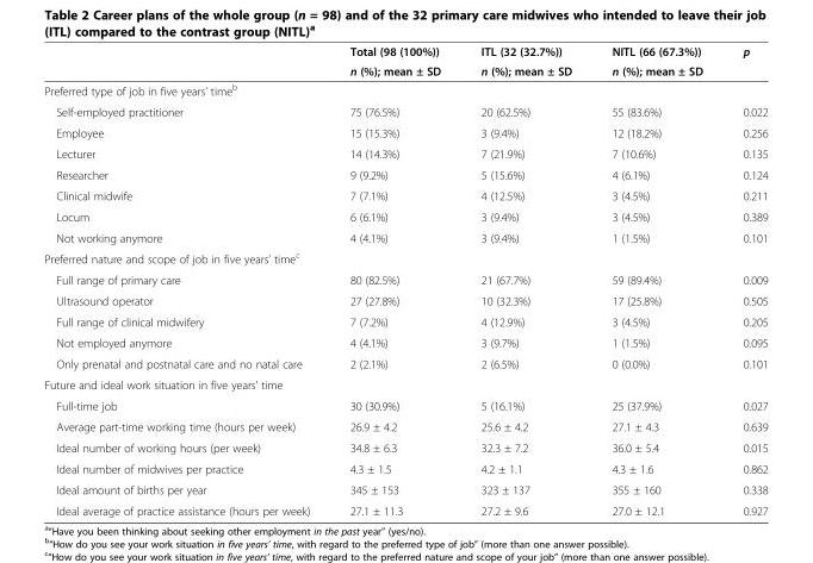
<table><thead><tr><td rowspan="2"></td><td rowspan="2">Total (98 (100%)) n (%); mean ± SD</td><td rowspan="2">ITL (32 (32.7%)) n (%); mean ± SD</td><td rowspan="2">NITL (66 (67.3%)) n (%); mean ± SD</td><td rowspan="2">p</td></tr><tr></tr></thead><tbody><tr><td colspan="5">Preferred type of job in five years’ time<sup>b</sup></td></tr><tr><td>Self-employed practitioner</td><td>75 (76.5%)</td><td>20 (62.5%)</td><td>55 (83.6%)</td><td>0.022</td></tr><tr><td>Employee</td><td>15 (15.3%)</td><td>3 (9.4%)</td><td>12 (18.2%)</td><td>0.256</td></tr><tr><td>Lecturer</td><td>14 (14.3%)</td><td>7 (21.9%)</td><td>7 (10.6%)</td><td>0.135</td></tr><tr><td>Researcher</td><td>9 (9.2%)</td><td>5 (15.6%)</td><td>4 (6.1%)</td><td>0.124</td></tr><tr><td>Clinical midwife</td><td>7 (7.1%)</td><td>4 (12.5%)</td><td>3 (4.5%)</td><td>0.211</td></tr><tr><td>Locum</td><td>6 (6.1%)</td><td>3 (9.4%)</td><td>3 (4.5%)</td><td>0.389</td></tr><tr><td>Not working anymore</td><td>4 (4.1%)</td><td>3 (9.4%)</td><td>1 (1.5%)</td><td>0.101</td></tr><tr><td colspan="5">Preferred nature and scope of job in five years’ time<sup>c</sup></td></tr><tr><td>Full range of primary care</td><td>80 (82.5%)</td><td>21 (67.7%)</td><td>59 (89.4%)</td><td>0.009</td></tr><tr><td>Ultrasound operator</td><td>27 (27.8%)</td><td>10 (32.3%)</td><td>17 (25.8%)</td><td>0.505</td></tr><tr><td>Full range of clinical midwifery</td><td>7 (7.2%)</td><td>4 (12.9%)</td><td>3 (4.5%)</td><td>0.205</td></tr><tr><td>Not employed anymore</td><td>4 (4.1%)</td><td>3 (9.7%)</td><td>1 (1.5%)</td><td>0.095</td></tr><tr><td>Only prenatal and postnatal care and no natal care</td><td>2 (2.1%)</td><td>2 (6.5%)</td><td>0 (0.0%)</td><td>0.101</td></tr><tr><td colspan="5">Future and ideal work situation in five years’ time</td></tr><tr><td>Full-time job</td><td>30 (30.9%)</td><td>5 (16.1%)</td><td>25 (37.9%)</td><td>0.027</td></tr><tr><td>Average part-time working time (hours per week)</td><td>26.9 ± 4.2</td><td>25.6 ± 4.2</td><td>27.1 ± 4.3</td><td>0.639</td></tr><tr><td>Ideal number of working hours (per week)</td><td>34.8 ± 6.3</td><td>32.3 ± 7.2</td><td>36.0 ± 5.4</td><td>0.015</td></tr><tr><td>Ideal number of midwives per practice</td><td>4.3 ± 1.5</td><td>4.2 ± 1.1</td><td>4.3 ± 1.6</td><td>0.862</td></tr><tr><td>Ideal amount of births per year</td><td>345 ± 153</td><td>323 ± 137</td><td>355 ± 160</td><td>0.338</td></tr><tr><td>Ideal average of practice assistance (hours per week)</td><td>27.1 ± 11.3</td><td>27.2 ± 9.6</td><td>27.0 ± 12.1</td><td>0.927</td></tr></tbody></table>